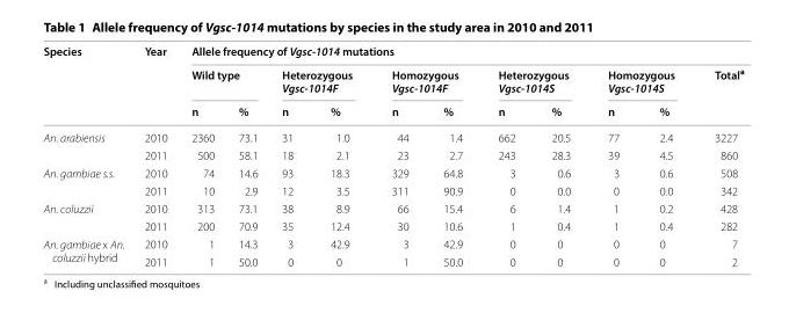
<table><thead><tr><td rowspan="3">Species</td><td rowspan="3">Year</td><td colspan="11">Allele frequency of Vgsc-1014 mutations</td></tr><tr><td colspan="2">Wild type</td><td colspan="2">Heterozygous Vgsc-1014F</td><td colspan="2">Homozygous Vgsc-1014F</td><td colspan="2">Heterozygous Vgsc-1014S</td><td colspan="2">Homozygous Vgsc-1014S</td><td rowspan="2">Total<sup>a</sup></td></tr><tr><td>n</td><td>%</td><td>n</td><td>%</td><td>n</td><td>%</td><td>n</td><td>%</td><td>n</td><td>%</td></tr></thead><tbody><tr><td rowspan="2">An. arabiensis</td><td>2010</td><td>2360</td><td>73.1</td><td>31</td><td>1.0</td><td>44</td><td>1.4</td><td>662</td><td>20.5</td><td>77</td><td>2.4</td><td>3227</td></tr><tr><td>2011</td><td>500</td><td>58.1</td><td>18</td><td>2.1</td><td>23</td><td>2.7</td><td>243</td><td>28.3</td><td>39</td><td>4.5</td><td>860</td></tr><tr><td rowspan="2">An. gambiae s.s.</td><td>2010</td><td>74</td><td>14.6</td><td>93</td><td>18.3</td><td>329</td><td>64.8</td><td>3</td><td>0.6</td><td>3</td><td>0.6</td><td>508</td></tr><tr><td>2011</td><td>10</td><td>2.9</td><td>12</td><td>3.5</td><td>311</td><td>90.9</td><td>0</td><td>0.0</td><td>0</td><td>0.0</td><td>342</td></tr><tr><td rowspan="2">An. coluzzii</td><td>2010</td><td>313</td><td>73.1</td><td>38</td><td>8.9</td><td>66</td><td>15.4</td><td>6</td><td>1.4</td><td>1</td><td>0.2</td><td>428</td></tr><tr><td>2011</td><td>200</td><td>70.9</td><td>35</td><td>12.4</td><td>30</td><td>10.6</td><td>1</td><td>0.4</td><td>1</td><td>0.4</td><td>282</td></tr><tr><td rowspan="2">An. gambiae x An. coluzzii hybrid</td><td>2010</td><td>1</td><td>14.3</td><td>3</td><td>42.9</td><td>3</td><td>42.9</td><td>0</td><td>0</td><td>0</td><td>0</td><td>7</td></tr><tr><td>2011</td><td>1</td><td>50.0</td><td>0</td><td>0</td><td>1</td><td>50.0</td><td>0</td><td>0</td><td>0</td><td>0</td><td>2</td></tr></tbody></table>